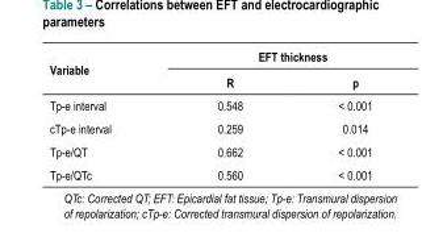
<table><thead><tr><td rowspan="2">Variable</td><td colspan="2">EFT thickness</td></tr><tr><td>R</td><td>p</td></tr></thead><tbody><tr><td>Tp-e interval</td><td>0.548</td><td>&lt; 0.001</td></tr><tr><td>cTp-e interval</td><td>0.259</td><td>0.014</td></tr><tr><td>Tp-e/QT</td><td>0.662</td><td>&lt; 0.001</td></tr><tr><td>Tp-e/QTc</td><td>0.560</td><td>&lt; 0.001</td></tr></tbody></table>